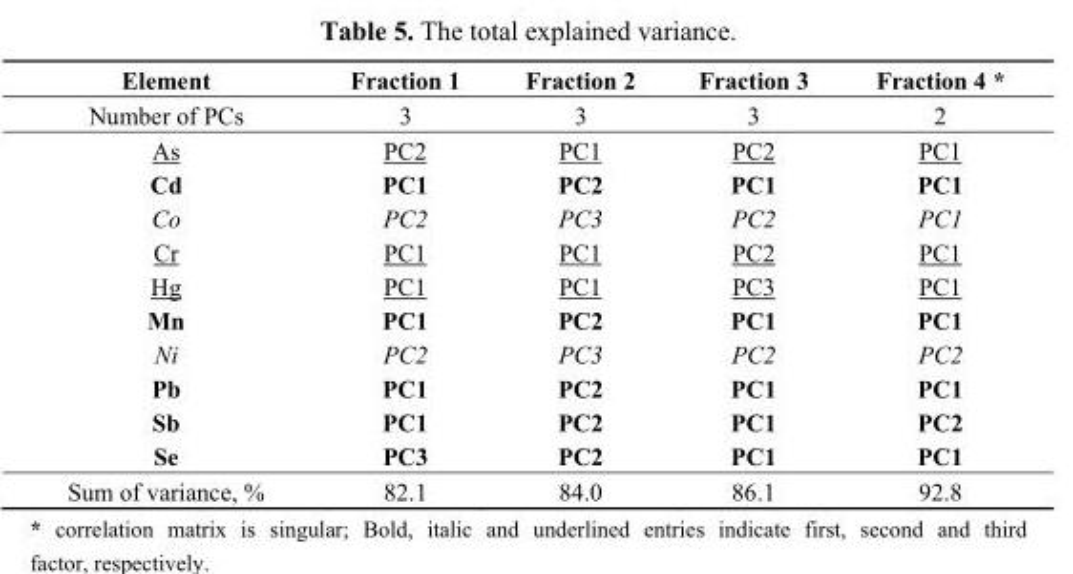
<table><thead><tr><td>Element</td><td>Fraction 1</td><td>Fraction 2</td><td>Fraction 3</td><td>Fraction 4 *</td></tr></thead><tbody><tr><td>Number of PCs</td><td>3</td><td>3</td><td>3</td><td>2</td></tr><tr><td>As</td><td>PC2</td><td>PC1</td><td>PC2</td><td>PC1</td></tr><tr><td>Cd</td><td>PC1</td><td>PC2</td><td>PC1</td><td>PC1</td></tr><tr><td>Co</td><td>PC2</td><td>PC3</td><td>PC2</td><td>PC1</td></tr><tr><td>Cr</td><td>PC1</td><td>PC1</td><td>PC2</td><td>PC1</td></tr><tr><td>Hg</td><td>PC1</td><td>PC1</td><td>PC3</td><td>PC1</td></tr><tr><td>Mn</td><td>PC1</td><td>PC2</td><td>PC1</td><td>PC1</td></tr><tr><td>Ni</td><td>PC2</td><td>PC3</td><td>PC2</td><td>PC2</td></tr><tr><td>Pb</td><td>PC1</td><td>PC2</td><td>PC1</td><td>PC1</td></tr><tr><td>Sb</td><td>PC1</td><td>PC2</td><td>PC1</td><td>PC2</td></tr><tr><td>Se</td><td>PC3</td><td>PC2</td><td>PC1</td><td>PC1</td></tr><tr><td>Sum of variance, %</td><td>82.1</td><td>84.0</td><td>86.1</td><td>92.8</td></tr></tbody></table>